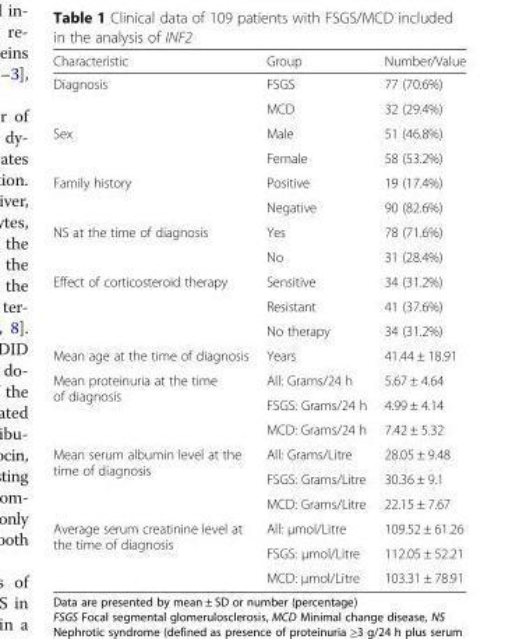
<table><thead><tr><td>Characteristic</td><td>Group</td><td>Number/Value</td></tr></thead><tbody><tr><td rowspan="2">Diagnosis</td><td>FSGS</td><td>77 (70.6%)</td></tr><tr><td>MCD</td><td>32 (29.4%)</td></tr><tr><td rowspan="2">Sex</td><td>Male</td><td>51 (46.8%)</td></tr><tr><td>Female</td><td>58 (53.2%)</td></tr><tr><td rowspan="2">Family history</td><td>Positive</td><td>19 (17.4%)</td></tr><tr><td>Negative</td><td>90 (82.6%)</td></tr><tr><td rowspan="2">NS at the time of diagnosis</td><td>Yes</td><td>78 (71.6%)</td></tr><tr><td>No</td><td>31 (28.4%)</td></tr><tr><td rowspan="3">Effect of corticosteroid therapy</td><td>Sensitive</td><td>34 (31.2%)</td></tr><tr><td>Resistant</td><td>41 (37.6%)</td></tr><tr><td>No therapy</td><td>34 (31.2%)</td></tr><tr><td>Mean age at the time of diagnosis</td><td>Years</td><td>41.44 ± 18.91</td></tr><tr><td rowspan="3">Mean proteinuria at the time of diagnosis</td><td>All: Grams/24 h</td><td>5.67 ± 4.64</td></tr><tr><td>FSGS: Grams/24 h</td><td>4.99 ± 4.14</td></tr><tr><td>MCD: Grams/24 h</td><td>7.42 ± 5.32</td></tr><tr><td rowspan="3">Mean serum albumin level at the time of diagnosis</td><td>All: Grams/Litre</td><td>28.05 ± 9.48</td></tr><tr><td>FSGS: Grams/Litre</td><td>30.36 ± 9.1</td></tr><tr><td>MCD: Grams/Litre</td><td>22.15 ± 7.67</td></tr><tr><td rowspan="3">Average serum creatinine level at the time of diagnosis</td><td>All: μmol/Litre</td><td>109.52 ± 61.26</td></tr><tr><td>FSGS: μmol/Litre</td><td>112.05 ± 52.21</td></tr><tr><td>MCD: μmol/Litre</td><td>103.31 ± 78.91</td></tr></tbody></table>